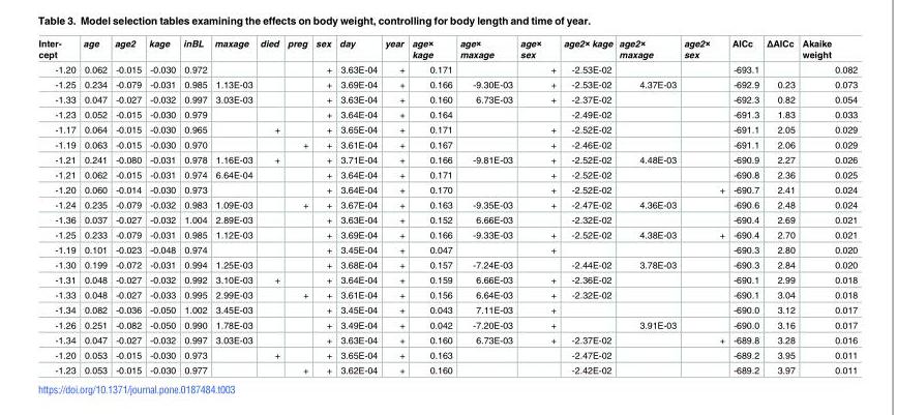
<table><thead><tr><td>Inter- cept</td><td>age</td><td>age2</td><td>kage</td><td>inBL</td><td>maxage</td><td>died</td><td>preg</td><td>sex</td><td>day</td><td>year</td><td>age× kage</td><td>age× maxage</td><td>age× sex</td><td>age2× kage</td><td>age2× maxage</td><td>age2× sex</td><td>AICc</td><td>ΔAICc</td><td>Akaike weight</td></tr></thead><tbody><tr><td>-1.20</td><td>0.062</td><td>-0.015</td><td>-0.030</td><td>0.972</td><td></td><td></td><td></td><td>+</td><td>3.63E-04</td><td>+</td><td>0.171</td><td></td><td>+</td><td>-2.53E-02</td><td></td><td></td><td>-693.1</td><td></td><td>0.082</td></tr><tr><td>-1.25</td><td>0.234</td><td>-0.079</td><td>-0.031</td><td>0.985</td><td>1.13E-03</td><td></td><td></td><td>+</td><td>3.69E-04</td><td>+</td><td>0.166</td><td>-9.30E-03</td><td>+</td><td>-2.53E-02</td><td>4.37E-03</td><td></td><td>-692.9</td><td>0.23</td><td>0.073</td></tr><tr><td>-1.33</td><td>0.047</td><td>-0.027</td><td>-0.032</td><td>0.997</td><td>3.03E-03</td><td></td><td></td><td>+</td><td>3.63E-04</td><td>+</td><td>0.160</td><td>6.73E-03</td><td>+</td><td>-2.37E-02</td><td></td><td></td><td>-692.3</td><td>0.82</td><td>0.054</td></tr><tr><td>-1.23</td><td>0.052</td><td>-0.015</td><td>-0.030</td><td>0.979</td><td></td><td></td><td></td><td>+</td><td>3.64E-04</td><td>+</td><td>0.164</td><td></td><td></td><td>-2.49E-02</td><td></td><td></td><td>-691.3</td><td>1.83</td><td>0.033</td></tr><tr><td>-1.17</td><td>0.064</td><td>-0.015</td><td>-0.030</td><td>0.965</td><td></td><td>+</td><td></td><td>+</td><td>3.65E-04</td><td>+</td><td>0.171</td><td></td><td>+</td><td>-2.52E-02</td><td></td><td></td><td>-691.1</td><td>2.05</td><td>0.029</td></tr><tr><td>-1.19</td><td>0.063</td><td>-0.015</td><td>-0.030</td><td>0.970</td><td></td><td></td><td>+</td><td>+</td><td>3.61E-04</td><td>+</td><td>0.167</td><td></td><td>+</td><td>-2.46E-02</td><td></td><td></td><td>-691.1</td><td>2.06</td><td>0.029</td></tr><tr><td>-1.21</td><td>0.241</td><td>-0.080</td><td>-0.031</td><td>0.978</td><td>1.16E-03</td><td>+</td><td></td><td>+</td><td>3.71E-04</td><td>+</td><td>0.166</td><td>-9.81E-03</td><td>+</td><td>-2.52E-02</td><td>4.48E-03</td><td></td><td>-690.9</td><td>2.27</td><td>0.026</td></tr><tr><td>-1.21</td><td>0.062</td><td>-0.015</td><td>-0.031</td><td>0.974</td><td>6.64E-04</td><td></td><td></td><td>+</td><td>3.64E-04</td><td>+</td><td>0.171</td><td></td><td>+</td><td>-2.52E-02</td><td></td><td></td><td>-690.8</td><td>2.36</td><td>0.025</td></tr><tr><td>-1.20</td><td>0.060</td><td>-0.014</td><td>-0.030</td><td>0.973</td><td></td><td></td><td></td><td>+</td><td>3.64E-04</td><td>+</td><td>0.170</td><td></td><td>+</td><td>-2.52E-02</td><td></td><td>+</td><td>-690.7</td><td>2.41</td><td>0.024</td></tr><tr><td>-1.24</td><td>0.235</td><td>-0.079</td><td>-0.032</td><td>0.983</td><td>1.09E-03</td><td></td><td>+</td><td>+</td><td>3.67E-04</td><td>+</td><td>0.163</td><td>-9.35E-03</td><td>+</td><td>-2.47E-02</td><td>4.36E-03</td><td></td><td>-690.6</td><td>2.48</td><td>0.024</td></tr><tr><td>-1.36</td><td>0.037</td><td>-0.027</td><td>-0.032</td><td>1.004</td><td>2.89E-03</td><td></td><td></td><td>+</td><td>3.63E-04</td><td>+</td><td>0.152</td><td>6.66E-03</td><td></td><td>-2.32E-02</td><td></td><td></td><td>-690.4</td><td>2.69</td><td>0.021</td></tr><tr><td>-1.25</td><td>0.233</td><td>-0.079</td><td>-0.031</td><td>0.985</td><td>1.12E-03</td><td></td><td></td><td>+</td><td>3.69E-04</td><td>+</td><td>0.166</td><td>-9.33E-03</td><td>+</td><td>-2.52E-02</td><td>4.38E-03</td><td>+</td><td>-690.4</td><td>2.70</td><td>0.021</td></tr><tr><td>-1.19</td><td>0.101</td><td>-0.023</td><td>-0.048</td><td>0.974</td><td></td><td></td><td></td><td>+</td><td>3.45E-04</td><td>+</td><td>0.047</td><td></td><td>+</td><td></td><td></td><td></td><td>-690.3</td><td>2.80</td><td>0.020</td></tr><tr><td>-1.30</td><td>0.199</td><td>-0.072</td><td>-0.031</td><td>0.994</td><td>1.25E-03</td><td></td><td></td><td>+</td><td>3.68E-04</td><td>+</td><td>0.157</td><td>-7.24E-03</td><td></td><td>-2.44E-02</td><td>3.78E-03</td><td></td><td>-690.3</td><td>2.84</td><td>0.020</td></tr><tr><td>-1.31</td><td>0.048</td><td>-0.027</td><td>-0.032</td><td>0.992</td><td>3.10E-03</td><td>+</td><td></td><td>+</td><td>3.64E-04</td><td>+</td><td>0.159</td><td>6.66E-03</td><td>+</td><td>-2.36E-02</td><td></td><td></td><td>-690.1</td><td>2.99</td><td>0.018</td></tr><tr><td>-1.33</td><td>0.048</td><td>-0.027</td><td>-0.033</td><td>0.995</td><td>2.99E-03</td><td></td><td>+</td><td>+</td><td>3.61E-04</td><td>+</td><td>0.156</td><td>6.64E-03</td><td>+</td><td>-2.32E-02</td><td></td><td></td><td>-690.1</td><td>3.04</td><td>0.018</td></tr><tr><td>-1.34</td><td>0.082</td><td>-0.036</td><td>-0.050</td><td>1.002</td><td>3.45E-03</td><td></td><td></td><td>+</td><td>3.45E-04</td><td>+</td><td>0.043</td><td>7.11E-03</td><td>+</td><td></td><td></td><td></td><td>-690.0</td><td>3.12</td><td>0.017</td></tr><tr><td>-1.26</td><td>0.251</td><td>-0.082</td><td>-0.050</td><td>0.990</td><td>1.78E-03</td><td></td><td></td><td>+</td><td>3.49E-04</td><td>+</td><td>0.042</td><td>-7.20E-03</td><td>+</td><td></td><td>3.91E-03</td><td></td><td>-690.0</td><td>3.16</td><td>0.017</td></tr><tr><td>-1.34</td><td>0.047</td><td>-0.027</td><td>-0.032</td><td>0.997</td><td>3.03E-03</td><td></td><td></td><td>+</td><td>3.63E-04</td><td>+</td><td>0.160</td><td>6.73E-03</td><td>+</td><td>-2.37E-02</td><td></td><td>+</td><td>-689.8</td><td>3.28</td><td>0.016</td></tr><tr><td>-1.20</td><td>0.053</td><td>-0.015</td><td>-0.030</td><td>0.973</td><td></td><td>+</td><td></td><td>+</td><td>3.65E-04</td><td>+</td><td>0.163</td><td></td><td></td><td>-2.47E-02</td><td></td><td></td><td>-689.2</td><td>3.95</td><td>0.011</td></tr><tr><td>-1.23</td><td>0.053</td><td>-0.015</td><td>-0.030</td><td>0.977</td><td></td><td></td><td>+</td><td>+</td><td>3.62E-04</td><td>+</td><td>0.160</td><td></td><td></td><td>-2.42E-02</td><td></td><td></td><td>-689.2</td><td>3.97</td><td>0.011</td></tr></tbody></table>